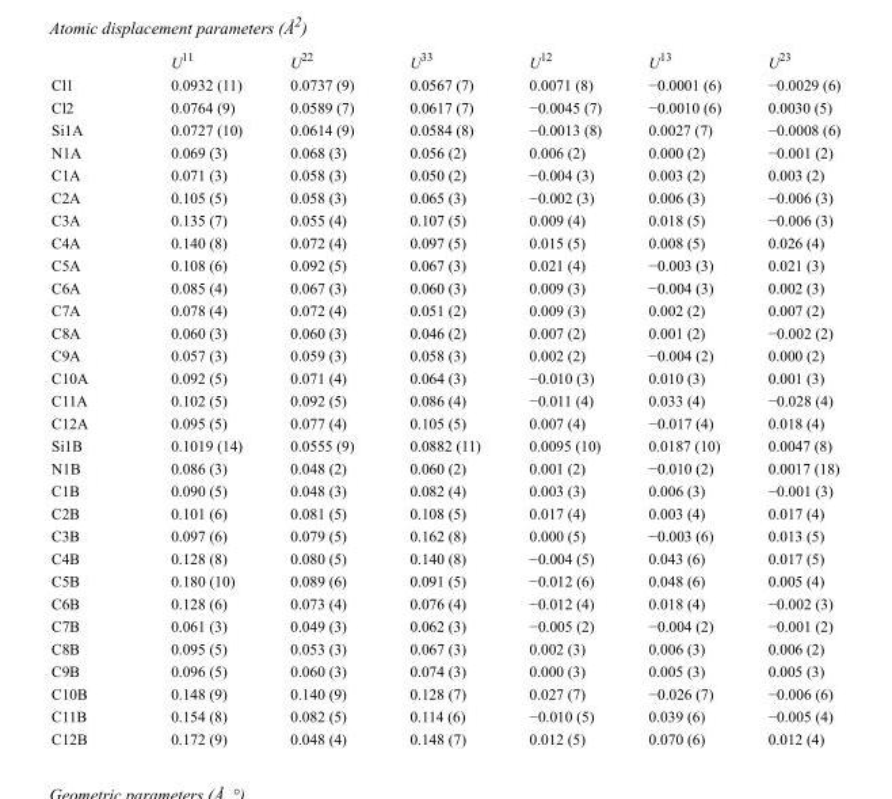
<table><thead><tr><td></td><td>U<sup>11</sup></td><td>U<sup>22</sup></td><td>U<sup>33</sup></td><td>U<sup>12</sup></td><td>U<sup>13</sup></td><td>U<sup>23</sup></td></tr></thead><tbody><tr><td>Cl1</td><td>0.0932 (11)</td><td>0.0737 (9)</td><td>0.0567 (7)</td><td>0.0071 (8)</td><td>−0.0001 (6)</td><td>−0.0029 (6)</td></tr><tr><td>Cl2</td><td>0.0764 (9)</td><td>0.0589 (7)</td><td>0.0617 (7)</td><td>−0.0045 (7)</td><td>−0.0010 (6)</td><td>0.0030 (5)</td></tr><tr><td>Si1A</td><td>0.0727 (10)</td><td>0.0614 (9)</td><td>0.0584 (8)</td><td>−0.0013 (8)</td><td>0.0027 (7)</td><td>−0.0008 (6)</td></tr><tr><td>N1A</td><td>0.069 (3)</td><td>0.068 (3)</td><td>0.056 (2)</td><td>0.006 (2)</td><td>0.000 (2)</td><td>−0.001 (2)</td></tr><tr><td>C1A</td><td>0.071 (3)</td><td>0.058 (3)</td><td>0.050 (2)</td><td>−0.004 (3)</td><td>0.003 (2)</td><td>0.003 (2)</td></tr><tr><td>C2A</td><td>0.105 (5)</td><td>0.058 (3)</td><td>0.065 (3)</td><td>−0.002 (3)</td><td>0.006 (3)</td><td>−0.006 (3)</td></tr><tr><td>C3A</td><td>0.135 (7)</td><td>0.055 (4)</td><td>0.107 (5)</td><td>0.009 (4)</td><td>0.018 (5)</td><td>−0.006 (3)</td></tr><tr><td>C4A</td><td>0.140 (8)</td><td>0.072 (4)</td><td>0.097 (5)</td><td>0.015 (5)</td><td>0.008 (5)</td><td>0.026 (4)</td></tr><tr><td>C5A</td><td>0.108 (6)</td><td>0.092 (5)</td><td>0.067 (3)</td><td>0.021 (4)</td><td>−0.003 (3)</td><td>0.021 (3)</td></tr><tr><td>C6A</td><td>0.085 (4)</td><td>0.067 (3)</td><td>0.060 (3)</td><td>0.009 (3)</td><td>−0.004 (3)</td><td>0.002 (3)</td></tr><tr><td>C7A</td><td>0.078 (4)</td><td>0.072 (4)</td><td>0.051 (2)</td><td>0.009 (3)</td><td>0.002 (2)</td><td>0.007 (2)</td></tr><tr><td>C8A</td><td>0.060 (3)</td><td>0.060 (3)</td><td>0.046 (2)</td><td>0.007 (2)</td><td>0.001 (2)</td><td>−0.002 (2)</td></tr><tr><td>C9A</td><td>0.057 (3)</td><td>0.059 (3)</td><td>0.058 (3)</td><td>0.002 (2)</td><td>−0.004 (2)</td><td>0.000 (2)</td></tr><tr><td>C10A</td><td>0.092 (5)</td><td>0.071 (4)</td><td>0.064 (3)</td><td>−0.010 (3)</td><td>0.010 (3)</td><td>0.001 (3)</td></tr><tr><td>C11A</td><td>0.102 (5)</td><td>0.092 (5)</td><td>0.086 (4)</td><td>−0.011 (4)</td><td>0.033 (4)</td><td>−0.028 (4)</td></tr><tr><td>C12A</td><td>0.095 (5)</td><td>0.077 (4)</td><td>0.105 (5)</td><td>0.007 (4)</td><td>−0.017 (4)</td><td>0.018 (4)</td></tr><tr><td>Si1B</td><td>0.1019 (14)</td><td>0.0555 (9)</td><td>0.0882 (11)</td><td>0.0095 (10)</td><td>0.0187 (10)</td><td>0.0047 (8)</td></tr><tr><td>N1B</td><td>0.086 (3)</td><td>0.048 (2)</td><td>0.060 (2)</td><td>0.001 (2)</td><td>−0.010 (2)</td><td>0.0017 (18)</td></tr><tr><td>C1B</td><td>0.090 (5)</td><td>0.048 (3)</td><td>0.082 (4)</td><td>0.003 (3)</td><td>0.006 (3)</td><td>−0.001 (3)</td></tr><tr><td>C2B</td><td>0.101 (6)</td><td>0.081 (5)</td><td>0.108 (5)</td><td>0.017 (4)</td><td>0.003 (4)</td><td>0.017 (4)</td></tr><tr><td>C3B</td><td>0.097 (6)</td><td>0.079 (5)</td><td>0.162 (8)</td><td>0.000 (5)</td><td>−0.003 (6)</td><td>0.013 (5)</td></tr><tr><td>C4B</td><td>0.128 (8)</td><td>0.080 (5)</td><td>0.140 (8)</td><td>−0.004 (5)</td><td>0.043 (6)</td><td>0.017 (5)</td></tr><tr><td>C5B</td><td>0.180 (10)</td><td>0.089 (6)</td><td>0.091 (5)</td><td>−0.012 (6)</td><td>0.048 (6)</td><td>0.005 (4)</td></tr><tr><td>C6B</td><td>0.128 (6)</td><td>0.073 (4)</td><td>0.076 (4)</td><td>−0.012 (4)</td><td>0.018 (4)</td><td>−0.002 (3)</td></tr><tr><td>C7B</td><td>0.061 (3)</td><td>0.049 (3)</td><td>0.062 (3)</td><td>−0.005 (2)</td><td>−0.004 (2)</td><td>−0.001 (2)</td></tr><tr><td>C8B</td><td>0.095 (5)</td><td>0.053 (3)</td><td>0.067 (3)</td><td>0.002 (3)</td><td>0.006 (3)</td><td>0.006 (2)</td></tr><tr><td>C9B</td><td>0.096 (5)</td><td>0.060 (3)</td><td>0.074 (3)</td><td>0.000 (3)</td><td>0.005 (3)</td><td>0.005 (3)</td></tr><tr><td>C10B</td><td>0.148 (9)</td><td>0.140 (9)</td><td>0.128 (7)</td><td>0.027 (7)</td><td>−0.026 (7)</td><td>−0.006 (6)</td></tr><tr><td>C11B</td><td>0.154 (8)</td><td>0.082 (5)</td><td>0.114 (6)</td><td>−0.010 (5)</td><td>0.039 (6)</td><td>−0.005 (4)</td></tr><tr><td>C12B</td><td>0.172 (9)</td><td>0.048 (4)</td><td>0.148 (7)</td><td>0.012 (5)</td><td>0.070 (6)</td><td>0.012 (4)</td></tr></tbody></table>